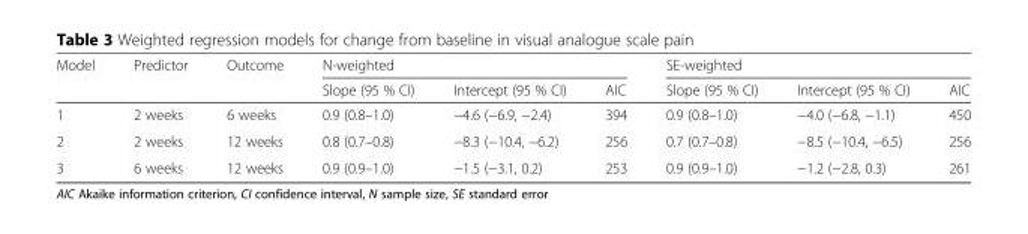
<table><thead><tr><td rowspan="2">Model</td><td rowspan="2">Predictor</td><td rowspan="2">Outcome</td><td colspan="3">N-weighted</td><td colspan="3">SE-weighted</td></tr><tr><td>Slope (95 % CI)</td><td>Intercept (95 % CI)</td><td>AIC</td><td>Slope (95 % CI)</td><td>Intercept (95 % CI)</td><td>AIC</td></tr></thead><tbody><tr><td>1</td><td>2 weeks</td><td>6 weeks</td><td>0.9 (0.8–1.0)</td><td>−4.6 (−6.9, −2.4)</td><td>394</td><td>0.9 (0.8–1.0)</td><td>−4.0 (−6.8, −1.1)</td><td>450</td></tr><tr><td>2</td><td>2 weeks</td><td>12 weeks</td><td>0.8 (0.7–0.8)</td><td>−8.3 (−10.4, −6.2)</td><td>256</td><td>0.7 (0.7–0.8)</td><td>−8.5 (−10.4, −6.5)</td><td>256</td></tr><tr><td>3</td><td>6 weeks</td><td>12 weeks</td><td>0.9 (0.9–1.0)</td><td>−1.5 (−3.1, 0.2)</td><td>253</td><td>0.9 (0.9–1.0)</td><td>−1.2 (−2.8, 0.3)</td><td>261</td></tr></tbody></table>